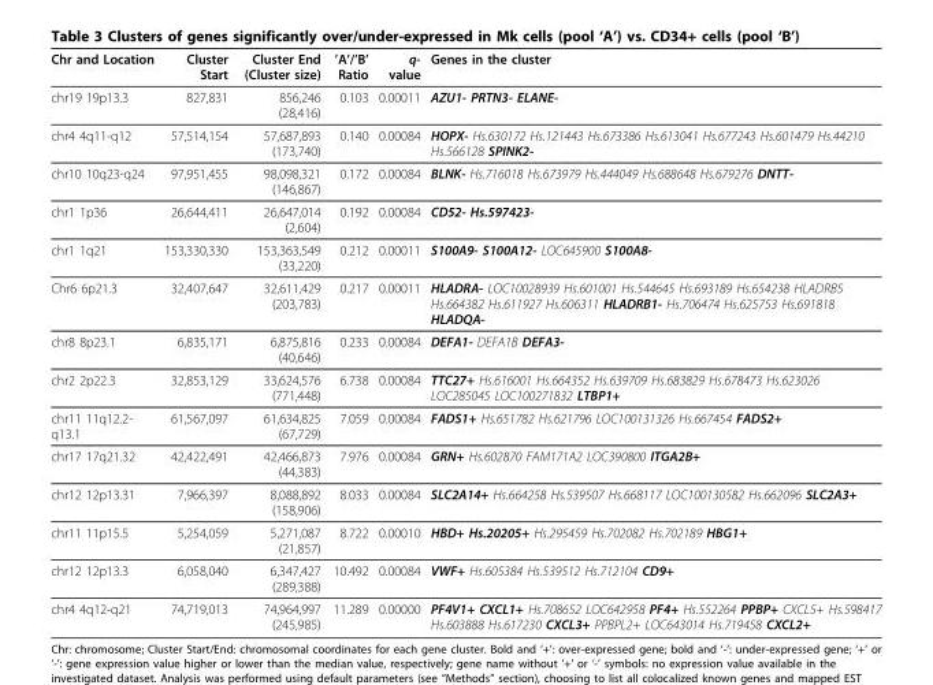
<table><thead><tr><td>Chr and Location</td><td>Cluster Start</td><td>Cluster End (Cluster size)</td><td>’A’/’B’ Ratio</td><td>q- value</td><td>Genes in the cluster</td></tr></thead><tbody><tr><td>chr19 19p13.3</td><td>827,831</td><td>856,246 (28,416)</td><td>0.103</td><td>0.00011</td><td>AZU1- PRTN3- ELANE-</td></tr><tr><td>chr4 4q11-q12</td><td>57,514,154</td><td>57,687,893 (173,740)</td><td>0.140</td><td>0.00084</td><td>HOPX- Hs.630172 Hs.121443 Hs.673386 Hs.613041 Hs.677243 Hs.601479 Hs.44210 Hs.566128 SPINK2-</td></tr><tr><td>chr10 10q23-q24</td><td>97,951,455</td><td>98,098,321 (146,867)</td><td>0.172</td><td>0.00084</td><td>BLNK- Hs.716018 Hs.673979 Hs.444049 Hs.688648 Hs.679276 DNTT-</td></tr><tr><td>chr1 1p36</td><td>26,644,411</td><td>26,647,014 (2,604)</td><td>0.192</td><td>0.00084</td><td>CD52- Hs.597423-</td></tr><tr><td>chr1 1q21</td><td>153,330,330</td><td>153,363,549 (33,220)</td><td>0.212</td><td>0.00011</td><td>S100A9- S100A12- LOC645900 S100A8-</td></tr><tr><td>Chr6 6p21.3</td><td>32,407,647</td><td>32,611,429 (203,783)</td><td>0.217</td><td>0.00011</td><td>HLADRA- LOC10028939 Hs.601001 Hs.544645 Hs.693189 Hs.654238 HLADRB5 Hs.664382 Hs.611927 Hs.606311 HLADRB1- Hs.706474 Hs.625753 Hs.691818 HLADQA-</td></tr><tr><td>chr8 8p23.1</td><td>6,835,171</td><td>6,875,816 (40,646)</td><td>0.233</td><td>0.00084</td><td>DEFA1- DEFA1B DEFA3-</td></tr><tr><td>chr2 2p22.3</td><td>32,853,129</td><td>33,624,576 (771,448)</td><td>6.738</td><td>0.00084</td><td>TTC27+ Hs.616001 Hs.664352 Hs.639709 Hs.683829 Hs.678473 Hs.623026 LOC285045 LOC100271832 LTBP1+</td></tr><tr><td>chr11 11q12.2- q13.1</td><td>61,567,097</td><td>61,634,825 (67,729)</td><td>7.059</td><td>0.00084</td><td>FADS1+ Hs.651782 Hs.621796 LOC100131326 Hs.667454 FADS2+</td></tr><tr><td>chr17 17q21.32</td><td>42,422,491</td><td>42,466,873 (44,383)</td><td>7.976</td><td>0.00084</td><td>GRN+ Hs.602870 FAM171A2 LOC390800 ITGA2B+</td></tr><tr><td>chr12 12p13.31</td><td>7,966,397</td><td>8,088,892 (158,906)</td><td>8.033</td><td>0.00084</td><td>SLC2A14+ Hs.664258 Hs.539507 Hs.668117 LOC100130582 Hs.662096 SLC2A3+</td></tr><tr><td>chr11 11p15.5</td><td>5,254,059</td><td>5,271,087 (21,857)</td><td>8.722</td><td>0.00010</td><td>HBD+ Hs.20205+ Hs.295459 Hs.702082 Hs.702189 HBG1+</td></tr><tr><td>chr12 12p13.3</td><td>6,058,040</td><td>6,347,427 (289,388)</td><td>10.492</td><td>0.00084</td><td>VWF+ Hs.605384 Hs.539512 Hs.712104 CD9+</td></tr><tr><td>chr4 4q12-q21</td><td>74,719,013</td><td>74,964,997 (245,985)</td><td>11.289</td><td>0.00000</td><td>PF4V1+ CXCL1+ Hs.708652 LOC642958 PF4+ Hs.552264 PPBP+ CXCL5+ Hs.598417 Hs.603888 Hs.617230 CXCL3+ PPBPL2+ LOC643014 Hs.719458 CXCL2+</td></tr></tbody></table>